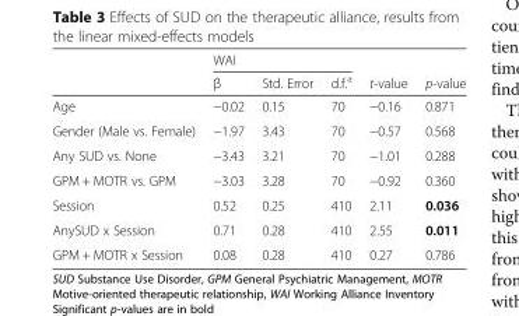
<table><thead><tr><td rowspan="2"></td><td colspan="3">WAI</td><td rowspan="2">t-value</td><td rowspan="2">p-value</td></tr><tr><td>β</td><td>Std. Error</td><td>d.f.<sup>a</sup></td></tr></thead><tbody><tr><td>Age</td><td>−0.02</td><td>0.15</td><td>70</td><td>−0.16</td><td>0.871</td></tr><tr><td>Gender (Male vs. Female)</td><td>−1.97</td><td>3.43</td><td>70</td><td>−0.57</td><td>0.568</td></tr><tr><td>Any SUD vs. None</td><td>−3.43</td><td>3.21</td><td>70</td><td>−1.01</td><td>0.288</td></tr><tr><td>GPM + MOTR vs. GPM</td><td>−3.03</td><td>3.28</td><td>70</td><td>−0.92</td><td>0.360</td></tr><tr><td>Session</td><td>0.52</td><td>0.25</td><td>410</td><td>2.11</td><td>0.036</td></tr><tr><td>AnySUD x Session</td><td>0.71</td><td>0.28</td><td>410</td><td>2.55</td><td>0.011</td></tr><tr><td>GPM + MOTR x Session</td><td>0.08</td><td>0.28</td><td>410</td><td>0.27</td><td>0.786</td></tr></tbody></table>